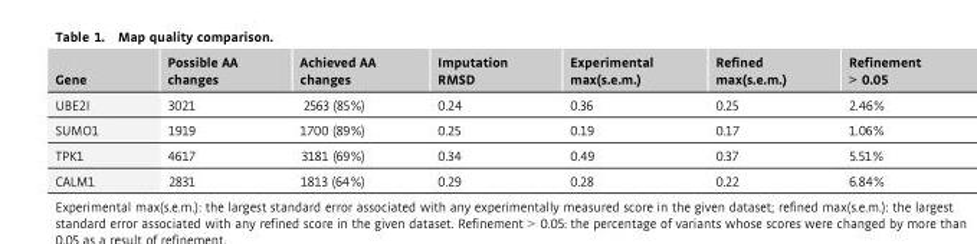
<table><thead><tr><td>Gene</td><td>Possible AA changes</td><td>Achieved AA changes</td><td>Imputation RMSD</td><td>Experimental max(s.e.m.)</td><td>Refined max(s.e.m.)</td><td>Refinement &gt; 0.05</td></tr></thead><tbody><tr><td>UBE2I</td><td>3021</td><td>2563 (85%)</td><td>0.24</td><td>0.36</td><td>0.25</td><td>2.46%</td></tr><tr><td>SUMO1</td><td>1919</td><td>1700 (89%)</td><td>0.25</td><td>0.19</td><td>0.17</td><td>1.06%</td></tr><tr><td>TPK1</td><td>4617</td><td>3181 (69%)</td><td>0.34</td><td>0.49</td><td>0.37</td><td>5.51%</td></tr><tr><td>CALM1</td><td>2831</td><td>1813 (64%)</td><td>0.29</td><td>0.28</td><td>0.22</td><td>6.84%</td></tr></tbody></table>